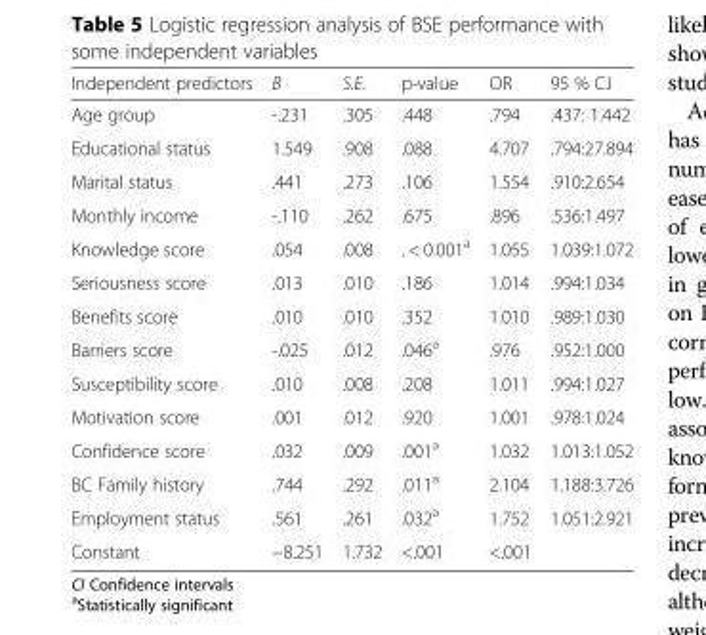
<table><thead><tr><td>Independent predictors</td><td>B</td><td>S.E.</td><td>p-value</td><td>OR</td><td>95 % C.I</td></tr></thead><tbody><tr><td>Age group</td><td>-.231</td><td>.305</td><td>.448</td><td>.794</td><td>.437: 1.442</td></tr><tr><td>Educational status</td><td>1.549</td><td>.908</td><td>.088</td><td>4.707</td><td>.794:27.894</td></tr><tr><td>Marital status</td><td>.441</td><td>.273</td><td>.106</td><td>1.554</td><td>.910:2.654</td></tr><tr><td>Monthly income</td><td>-.110</td><td>.262</td><td>.675</td><td>.896</td><td>.536:1.497</td></tr><tr><td>Knowledge score</td><td>.054</td><td>.008</td><td>. &lt; 0.001<sup>a</sup></td><td>1.055</td><td>1.039:1.072</td></tr><tr><td>Seriousness score</td><td>.013</td><td>.010</td><td>.186</td><td>1.014</td><td>.994:1.034</td></tr><tr><td>Benefits score</td><td>.010</td><td>.010</td><td>.352</td><td>1.010</td><td>.989:1.030</td></tr><tr><td>Barriers score</td><td>-.025</td><td>.012</td><td>.046<sup>a</sup></td><td>.976</td><td>.952:1.000</td></tr><tr><td>Susceptibility score</td><td>.010</td><td>.008</td><td>.208</td><td>1.011</td><td>.994:1.027</td></tr><tr><td>Motivation score</td><td>.001</td><td>.012</td><td>.920</td><td>1.001</td><td>.978:1.024</td></tr><tr><td>Confidence score</td><td>.032</td><td>.009</td><td>.001<sup>a</sup></td><td>1.032</td><td>1.013:1.052</td></tr><tr><td>BC Family history</td><td>.744</td><td>.292</td><td>.011<sup>a</sup></td><td>2.104</td><td>1.188:3.726</td></tr><tr><td>Employment status</td><td>.561</td><td>.261</td><td>.032<sup>a</sup></td><td>1.752</td><td>1.051:2.921</td></tr><tr><td>Constant</td><td>−8.251</td><td>1.732</td><td>&lt;.001</td><td>&lt;.001</td><td></td></tr></tbody></table>